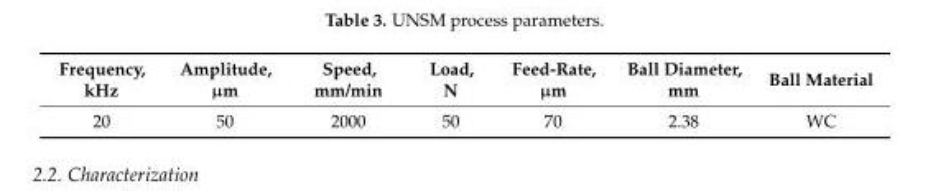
<table><thead><tr><td>Frequency, kHz</td><td>Amplitude, µm</td><td>Speed, mm/min</td><td>Load, N</td><td>Feed-Rate, µm</td><td>Ball Diameter, mm</td><td>Ball Material</td></tr></thead><tbody><tr><td>20</td><td>50</td><td>2000</td><td>50</td><td>70</td><td>2.38</td><td>WC</td></tr></tbody></table>